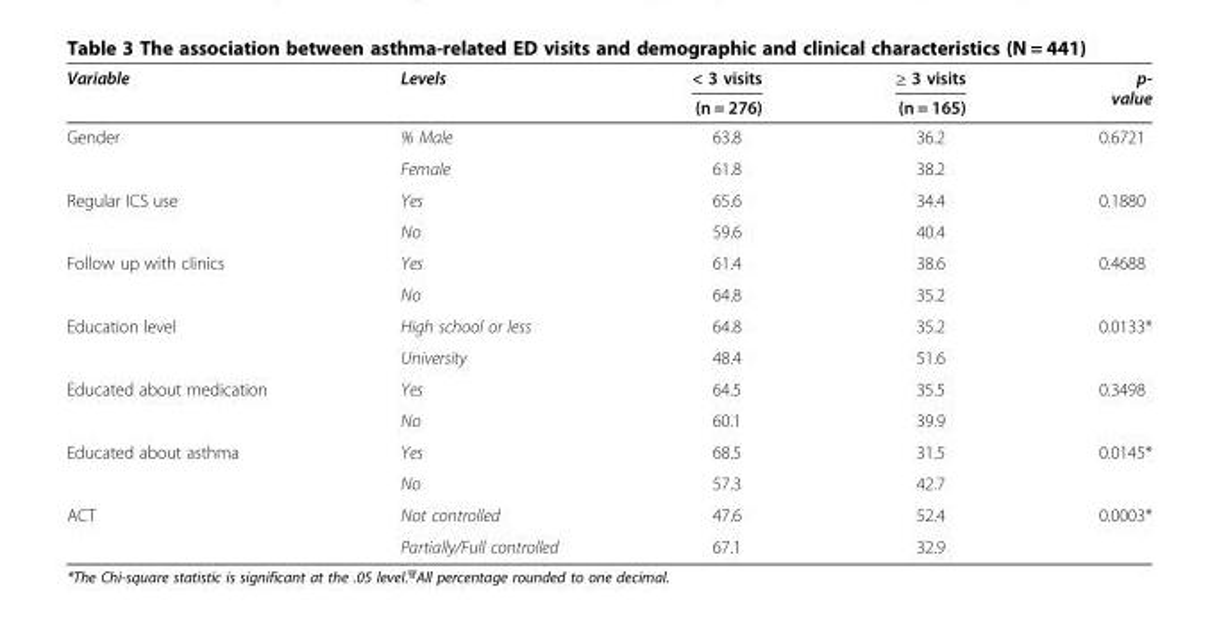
<table><thead><tr><td rowspan="2">Variable</td><td rowspan="2">Levels</td><td rowspan="2">&lt; 3 visits (n = 276)</td><td rowspan="2">≥ 3 visits (n = 165)</td><td rowspan="2">p- value</td></tr><tr></tr></thead><tbody><tr><td rowspan="2">Gender</td><td>% Male</td><td>63.8</td><td>36.2</td><td rowspan="2">0.6721</td></tr><tr><td>Female</td><td>61.8</td><td>38.2</td></tr><tr><td rowspan="2">Regular ICS use</td><td>Yes</td><td>65.6</td><td>34.4</td><td rowspan="2">0.1880</td></tr><tr><td>No</td><td>59.6</td><td>40.4</td></tr><tr><td rowspan="2">Follow up with clinics</td><td>Yes</td><td>61.4</td><td>38.6</td><td rowspan="2">0.4688</td></tr><tr><td>No</td><td>64.8</td><td>35.2</td></tr><tr><td rowspan="2">Education level</td><td>High school or less</td><td>64.8</td><td>35.2</td><td rowspan="2">0.0133*</td></tr><tr><td>University</td><td>48.4</td><td>51.6</td></tr><tr><td rowspan="2">Educated about medication</td><td>Yes</td><td>64.5</td><td>35.5</td><td rowspan="2">0.3498</td></tr><tr><td>No</td><td>60.1</td><td>39.9</td></tr><tr><td rowspan="2">Educated about asthma</td><td>Yes</td><td>68.5</td><td>31.5</td><td rowspan="2">0.0145*</td></tr><tr><td>No</td><td>57.3</td><td>42.7</td></tr><tr><td rowspan="2">ACT</td><td>Not controlled</td><td>47.6</td><td>52.4</td><td rowspan="2">0.0003*</td></tr><tr><td>Partially/Full controlled</td><td>67.1</td><td>32.9</td></tr></tbody></table>